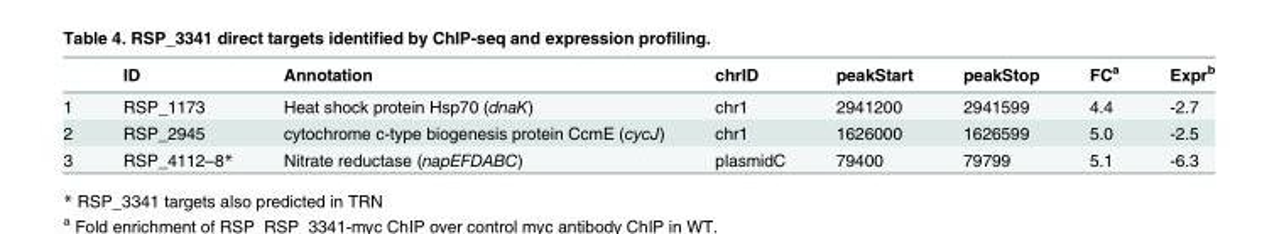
<table><thead><tr><td></td><td>ID</td><td>Annotation</td><td>chrID</td><td>peakStart</td><td>peakStop</td><td>FC<sup>a</sup></td><td>Expr<sup>b</sup></td></tr></thead><tbody><tr><td>1</td><td>RSP_1173</td><td>Heat shock protein Hsp70 (dnaK)</td><td>chr1</td><td>2941200</td><td>2941599</td><td>4.4</td><td>-2.7</td></tr><tr><td>2</td><td>RSP_2945</td><td>cytochrome c-type biogenesis protein CcmE (cycJ)</td><td>chr1</td><td>1626000</td><td>1626599</td><td>5.0</td><td>-2.5</td></tr><tr><td>3</td><td>RSP_4112–8*</td><td>Nitrate reductase (napEFDABC)</td><td>plasmidC</td><td>79400</td><td>79799</td><td>5.1</td><td>-6.3</td></tr></tbody></table>